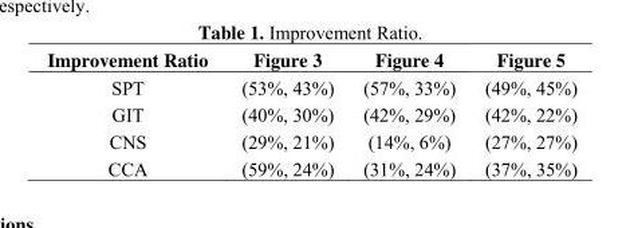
<table><thead><tr><td>Improvement Ratio</td><td>Figure 3</td><td>Figure 4</td><td>Figure 5</td></tr></thead><tbody><tr><td>SPT</td><td>(53%, 43%)</td><td>(57%, 33%)</td><td>(49%, 45%)</td></tr><tr><td>GIT</td><td>(40%, 30%)</td><td>(42%, 29%)</td><td>(42%, 22%)</td></tr><tr><td>CNS</td><td>(29%, 21%)</td><td>(14%, 6%)</td><td>(27%, 27%)</td></tr><tr><td>CCA</td><td>(59%, 24%)</td><td>(31%, 24%)</td><td>(37%, 35%)</td></tr></tbody></table>